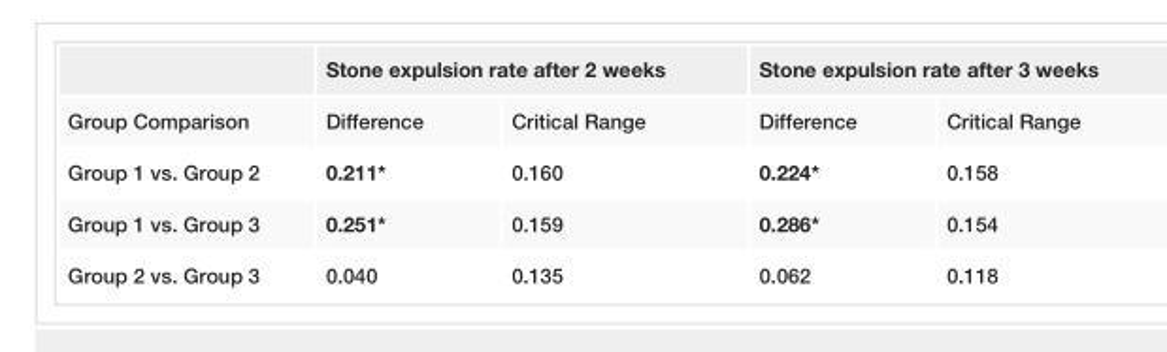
<table><thead><tr><td rowspan="2">Group Comparison</td><td colspan="2">Stone expulsion rate after 2 weeks</td><td colspan="2">Stone expulsion rate after 3 weeks</td></tr><tr><td>Difference</td><td>Critical Range</td><td>Difference</td><td>Critical Range</td></tr></thead><tbody><tr><td>Group 1 vs. Group 2</td><td>0.211*</td><td>0.160</td><td>0.224*</td><td>0.158</td></tr><tr><td>Group 1 vs. Group 3</td><td>0.251*</td><td>0.159</td><td>0.286*</td><td>0.154</td></tr><tr><td>Group 2 vs. Group 3</td><td>0.040</td><td>0.135</td><td>0.062</td><td>0.118</td></tr></tbody></table>